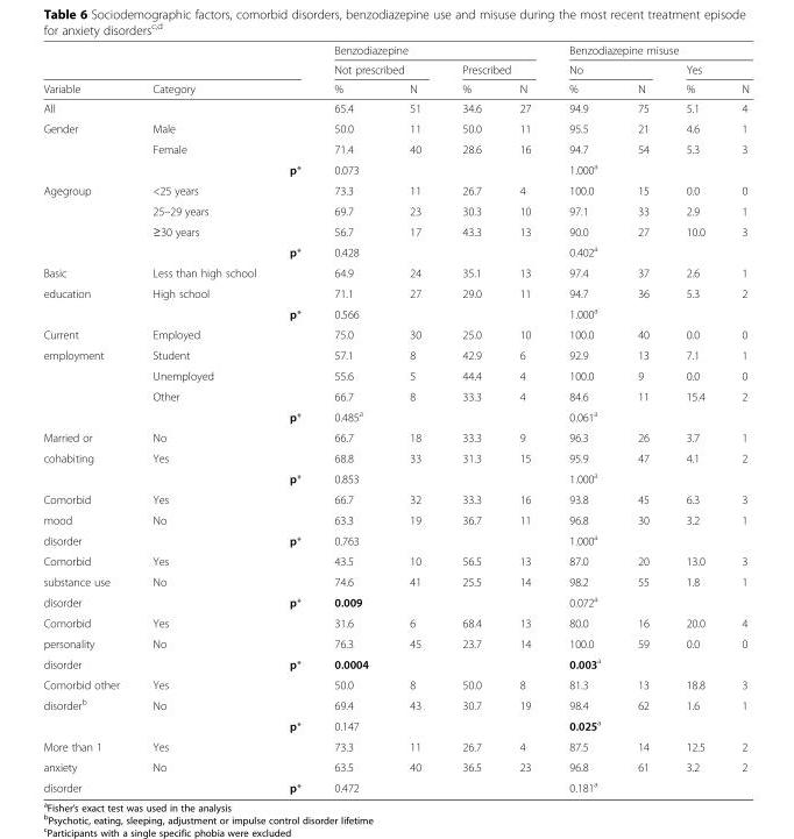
<table><thead><tr><td rowspan="3">Variable</td><td rowspan="3">Category</td><td rowspan="3"></td><td colspan="4">Benzodiazepine</td><td colspan="4">Benzodiazepine misuse</td></tr><tr><td colspan="2">Not prescribed</td><td colspan="2">Prescribed</td><td colspan="2">No</td><td colspan="2">Yes</td></tr><tr><td>%</td><td>N</td><td>%</td><td>N</td><td>%</td><td>N</td><td>%</td><td>N</td></tr></thead><tbody><tr><td>All</td><td></td><td></td><td>65.4</td><td>51</td><td>34.6</td><td>27</td><td>94.9</td><td>75</td><td>5.1</td><td>4</td></tr><tr><td rowspan="3">Gender</td><td>Male</td><td></td><td>50.0</td><td>11</td><td>50.0</td><td>11</td><td>95.5</td><td>21</td><td>4.6</td><td>1</td></tr><tr><td>Female</td><td></td><td>71.4</td><td>40</td><td>28.6</td><td>16</td><td>94.7</td><td>54</td><td>5.3</td><td>3</td></tr><tr><td></td><td>p*</td><td>0.073</td><td></td><td></td><td></td><td>1.000<sup>a</sup></td><td></td><td></td><td></td></tr><tr><td rowspan="4">Agegroup</td><td>&lt;25 years</td><td></td><td>73.3</td><td>11</td><td>26.7</td><td>4</td><td>100.0</td><td>15</td><td>0.0</td><td>0</td></tr><tr><td>25–29 years</td><td></td><td>69.7</td><td>23</td><td>30.3</td><td>10</td><td>97.1</td><td>33</td><td>2.9</td><td>1</td></tr><tr><td>≥30 years</td><td></td><td>56.7</td><td>17</td><td>43.3</td><td>13</td><td>90.0</td><td>27</td><td>10.0</td><td>3</td></tr><tr><td></td><td>p*</td><td>0.428</td><td></td><td></td><td></td><td>0.402<sup>a</sup></td><td></td><td></td><td></td></tr><tr><td>Basic</td><td>Less than high school</td><td></td><td>64.9</td><td>24</td><td>35.1</td><td>13</td><td>97.4</td><td>37</td><td>2.6</td><td>1</td></tr><tr><td rowspan="2">education</td><td>High school</td><td></td><td>71.1</td><td>27</td><td>29.0</td><td>11</td><td>94.7</td><td>36</td><td>5.3</td><td>2</td></tr><tr><td></td><td>p*</td><td>0.566</td><td></td><td></td><td></td><td>1.000<sup>a</sup></td><td></td><td></td><td></td></tr><tr><td>Current</td><td>Employed</td><td></td><td>75.0</td><td>30</td><td>25.0</td><td>10</td><td>100.0</td><td>40</td><td>0.0</td><td>0</td></tr><tr><td rowspan="4">employment</td><td>Student</td><td></td><td>57.1</td><td>8</td><td>42.9</td><td>6</td><td>92.9</td><td>13</td><td>7.1</td><td>1</td></tr><tr><td>Unemployed</td><td></td><td>55.6</td><td>5</td><td>44.4</td><td>4</td><td>100.0</td><td>9</td><td>0.0</td><td>0</td></tr><tr><td>Other</td><td></td><td>66.7</td><td>8</td><td>33.3</td><td>4</td><td>84.6</td><td>11</td><td>15.4</td><td>2</td></tr><tr><td></td><td>p*</td><td>0.485<sup>a</sup></td><td></td><td></td><td></td><td>0.061<sup>a</sup></td><td></td><td></td><td></td></tr><tr><td>Married or</td><td>No</td><td></td><td>66.7</td><td>18</td><td>33.3</td><td>9</td><td>96.3</td><td>26</td><td>3.7</td><td>1</td></tr><tr><td rowspan="2">cohabiting</td><td>Yes</td><td></td><td>68.8</td><td>33</td><td>31.3</td><td>15</td><td>95.9</td><td>47</td><td>4.1</td><td>2</td></tr><tr><td></td><td>p*</td><td>0.853</td><td></td><td></td><td></td><td>1.000<sup>a</sup></td><td></td><td></td><td></td></tr><tr><td>Comorbid</td><td>Yes</td><td></td><td>66.7</td><td>32</td><td>33.3</td><td>16</td><td>93.8</td><td>45</td><td>6.3</td><td>3</td></tr><tr><td>mood</td><td>No</td><td></td><td>63.3</td><td>19</td><td>36.7</td><td>11</td><td>96.8</td><td>30</td><td>3.2</td><td>1</td></tr><tr><td>disorder</td><td></td><td>p*</td><td>0.763</td><td></td><td></td><td></td><td>1.000<sup>a</sup></td><td></td><td></td><td></td></tr><tr><td>Comorbid</td><td>Yes</td><td></td><td>43.5</td><td>10</td><td>56.5</td><td>13</td><td>87.0</td><td>20</td><td>13.0</td><td>3</td></tr><tr><td>substance use</td><td>No</td><td></td><td>74.6</td><td>41</td><td>25.5</td><td>14</td><td>98.2</td><td>55</td><td>1.8</td><td>1</td></tr><tr><td>disorder</td><td></td><td>p*</td><td>0.009</td><td></td><td></td><td></td><td>0.072<sup>a</sup></td><td></td><td></td><td></td></tr><tr><td>Comorbid</td><td>Yes</td><td></td><td>31.6</td><td>6</td><td>68.4</td><td>13</td><td>80.0</td><td>16</td><td>20.0</td><td>4</td></tr><tr><td>personality</td><td>No</td><td></td><td>76.3</td><td>45</td><td>23.7</td><td>14</td><td>100.0</td><td>59</td><td>0.0</td><td>0</td></tr><tr><td>disorder</td><td></td><td>p*</td><td>0.0004</td><td></td><td></td><td></td><td>0.003<sup>a</sup></td><td></td><td></td><td></td></tr><tr><td>Comorbid other</td><td>Yes</td><td></td><td>50.0</td><td>8</td><td>50.0</td><td>8</td><td>81.3</td><td>13</td><td>18.8</td><td>3</td></tr><tr><td rowspan="2">disorder<sup>b</sup></td><td>No</td><td></td><td>69.4</td><td>43</td><td>30.7</td><td>19</td><td>98.4</td><td>62</td><td>1.6</td><td>1</td></tr><tr><td></td><td>p*</td><td>0.147</td><td></td><td></td><td></td><td>0.025<sup>a</sup></td><td></td><td></td><td></td></tr><tr><td>More than 1</td><td>Yes</td><td></td><td>73.3</td><td>11</td><td>26.7</td><td>4</td><td>87.5</td><td>14</td><td>12.5</td><td>2</td></tr><tr><td>anxiety</td><td>No</td><td></td><td>63.5</td><td>40</td><td>36.5</td><td>23</td><td>96.8</td><td>61</td><td>3.2</td><td>2</td></tr><tr><td>disorder</td><td></td><td>p*</td><td>0.472</td><td></td><td></td><td></td><td>0.181<sup>a</sup></td><td></td><td></td><td></td></tr></tbody></table>